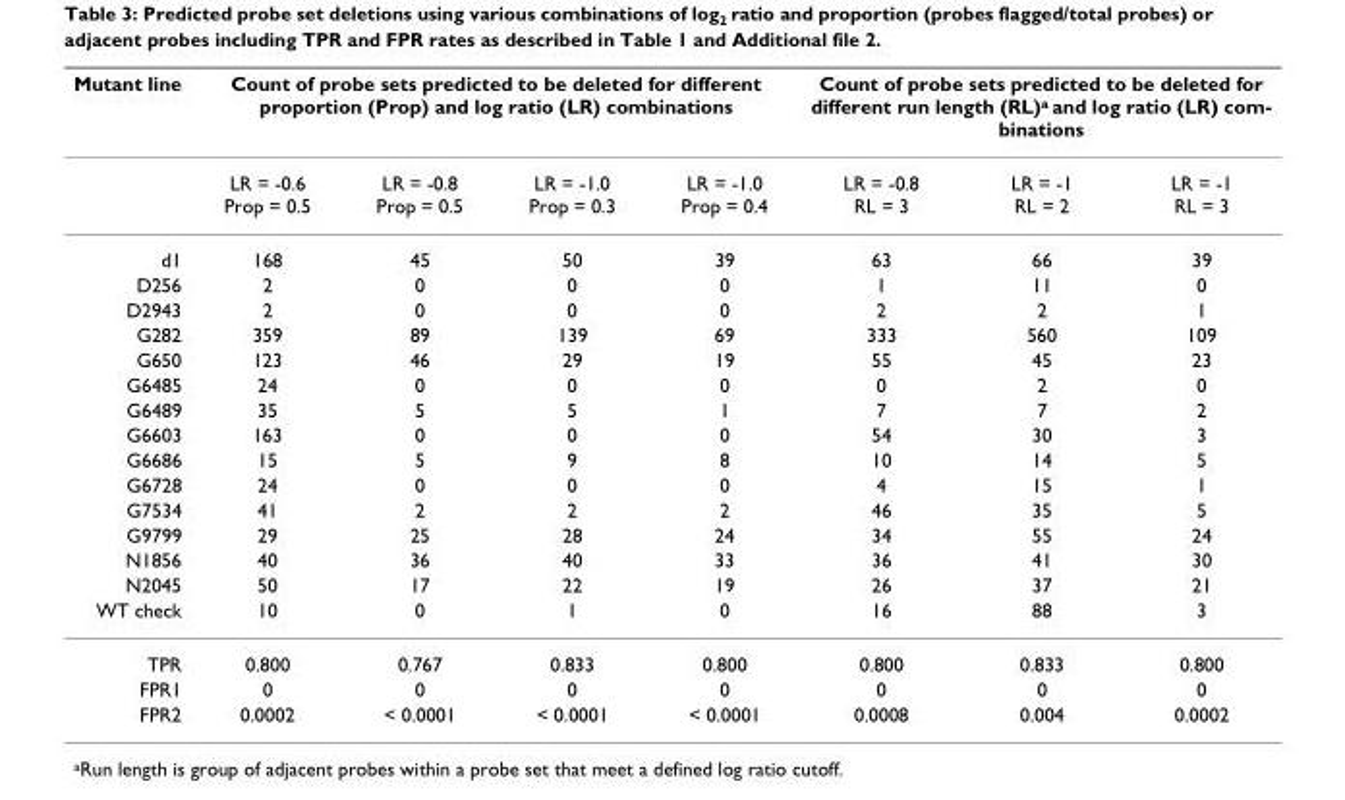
<table><thead><tr><td rowspan="2">Mutant line</td><td colspan="4">Count of probe sets predicted to be deleted for different proportion (Prop) and log ratio (LR) combinations</td><td colspan="3">Count of probe sets predicted to be deleted for different run length (RL)a and log ratio (LR) com- binations</td></tr><tr><td>LR = -0.6 Prop = 0.5</td><td>LR = -0.8 Prop = 0.5</td><td>LR = -1.0 Prop = 0.3</td><td>LR = -1.0 Prop = 0.4</td><td>LR = -0.8 RL = 3</td><td>LR = -1 RL = 2</td><td>LR = -1 RL = 3</td></tr></thead><tbody><tr><td>d1</td><td>168</td><td>45</td><td>50</td><td>39</td><td>63</td><td>66</td><td>39</td></tr><tr><td>D256</td><td>2</td><td>0</td><td>0</td><td>0</td><td>1</td><td>11</td><td>0</td></tr><tr><td>D2943</td><td>2</td><td>0</td><td>0</td><td>0</td><td>2</td><td>2</td><td>1</td></tr><tr><td>G282</td><td>359</td><td>89</td><td>139</td><td>69</td><td>333</td><td>560</td><td>109</td></tr><tr><td>G650</td><td>123</td><td>46</td><td>29</td><td>19</td><td>55</td><td>45</td><td>23</td></tr><tr><td>G6485</td><td>24</td><td>0</td><td>0</td><td>0</td><td>0</td><td>2</td><td>0</td></tr><tr><td>G6489</td><td>35</td><td>5</td><td>5</td><td>1</td><td>7</td><td>7</td><td>2</td></tr><tr><td>G6603</td><td>163</td><td>0</td><td>0</td><td>0</td><td>54</td><td>30</td><td>3</td></tr><tr><td>G6686</td><td>15</td><td>5</td><td>9</td><td>8</td><td>10</td><td>14</td><td>5</td></tr><tr><td>G6728</td><td>24</td><td>0</td><td>0</td><td>0</td><td>4</td><td>15</td><td>1</td></tr><tr><td>G7534</td><td>41</td><td>2</td><td>2</td><td>2</td><td>46</td><td>35</td><td>5</td></tr><tr><td>G9799</td><td>29</td><td>25</td><td>28</td><td>24</td><td>34</td><td>55</td><td>24</td></tr><tr><td>N1856</td><td>40</td><td>36</td><td>40</td><td>33</td><td>36</td><td>41</td><td>30</td></tr><tr><td>N2045</td><td>50</td><td>17</td><td>22</td><td>19</td><td>26</td><td>37</td><td>21</td></tr><tr><td>WT check</td><td>10</td><td>0</td><td>1</td><td>0</td><td>16</td><td>88</td><td>3</td></tr><tr><td>TPR</td><td>0.800</td><td>0.767</td><td>0.833</td><td>0.800</td><td>0.800</td><td>0.833</td><td>0.800</td></tr><tr><td>FPR1</td><td>0</td><td>0</td><td>0</td><td>0</td><td>0</td><td>0</td><td>0</td></tr><tr><td>FPR2</td><td>0.0002</td><td>&lt; 0.0001</td><td>&lt; 0.0001</td><td>&lt; 0.0001</td><td>0.0008</td><td>0.004</td><td>0.0002</td></tr></tbody></table>